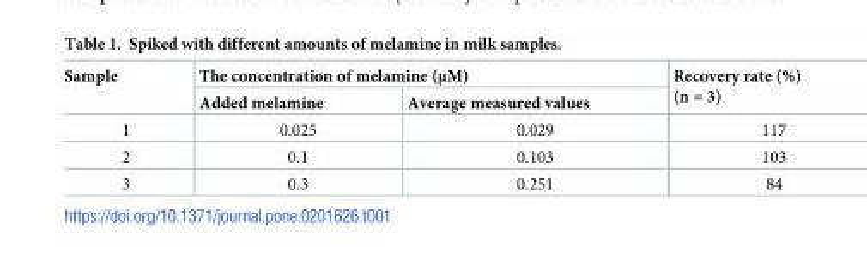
<table><thead><tr><td rowspan="2">Sample</td><td colspan="2">The concentration of melamine (μM)</td><td rowspan="2">Recovery rate (%) (n = 3)</td></tr><tr><td>Added melamine</td><td>Average measured values</td></tr></thead><tbody><tr><td>1</td><td>0.025</td><td>0.029</td><td>117</td></tr><tr><td>2</td><td>0.1</td><td>0.103</td><td>103</td></tr><tr><td>3</td><td>0.3</td><td>0.251</td><td>84</td></tr></tbody></table>